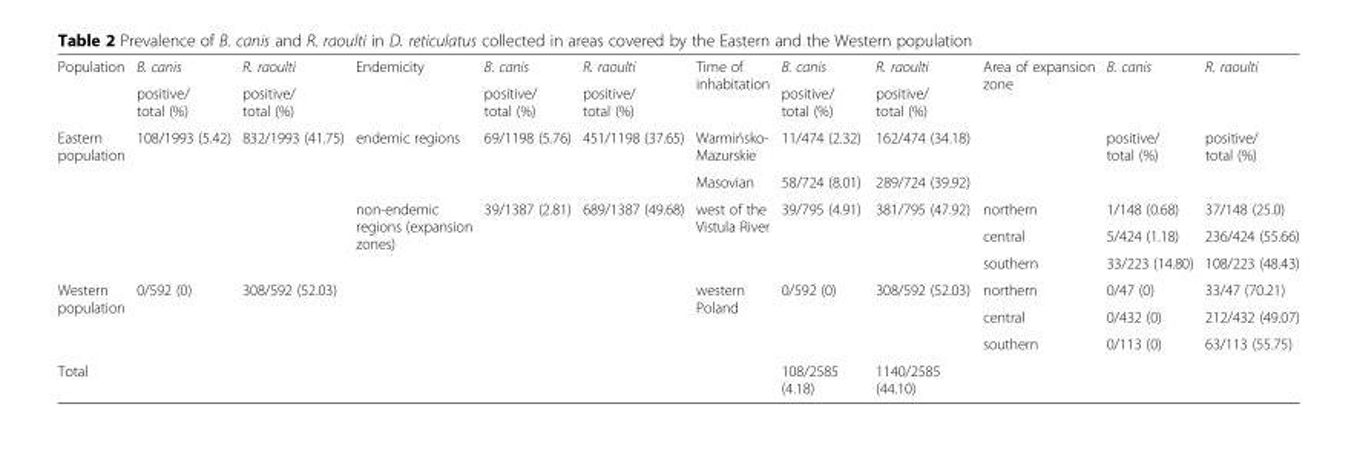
<table><tbody><tr><td rowspan="2">Population</td><td>B. canis</td><td>R. raoulti</td><td rowspan="2">Endemicity</td><td>B. canis</td><td>R. raoulti</td><td rowspan="2">Time of inhabitation</td><td>B. canis</td><td>R. raoulti</td><td rowspan="4">Area of expansion zone</td><td rowspan="2">B. canis</td><td rowspan="2">R. raoulti</td></tr><tr><td>positive/ total (%)</td><td>positive/ total (%)</td><td>positive/ total (%)</td><td>positive/ total (%)</td><td>positive/ total (%)</td><td>positive/ total (%)</td></tr><tr><td rowspan="5">Eastern population</td><td rowspan="5">108/1993 (5.42)</td><td rowspan="5">832/1993 (41.75)</td><td rowspan="2">endemic regions</td><td rowspan="2">69/1198 (5.76)</td><td rowspan="2">451/1198 (37.65)</td><td>Warmińsko- Mazurskie</td><td>11/474 (2.32)</td><td>162/474 (34.18)</td><td rowspan="2">positive/ total (%)</td><td rowspan="2">positive/ total (%)</td></tr><tr><td>Masovian</td><td>58/724 (8.01)</td><td>289/724 (39.92)</td></tr><tr><td rowspan="6">non-endemic regions (expansion zones)</td><td rowspan="6">39/1387 (2.81)</td><td rowspan="6">689/1387 (49.68)</td><td rowspan="3">west of the Vistula River</td><td rowspan="3">39/795 (4.91)</td><td rowspan="3">381/795 (47.92)</td><td>northern</td><td>1/148 (0.68)</td><td>37/148 (25.0)</td></tr><tr><td>central</td><td>5/424 (1.18)</td><td>236/424 (55.66)</td></tr><tr><td>southern</td><td>33/223 (14.80)</td><td>108/223 (48.43)</td></tr><tr><td rowspan="3">Western population</td><td rowspan="3">0/592 (0)</td><td rowspan="3">308/592 (52.03)</td><td rowspan="3">western Poland</td><td rowspan="3">0/592 (0)</td><td rowspan="3">308/592 (52.03)</td><td>northern</td><td>0/47 (0)</td><td>33/47 (70.21)</td></tr><tr><td>central</td><td>0/432 (0)</td><td>212/432 (49.07)</td></tr><tr><td>southern</td><td>0/113 (0)</td><td>63/113 (55.75)</td></tr><tr><td colspan="7">Total</td><td>108/2585 (4.18)</td><td>1140/2585 (44.10)</td><td colspan="3"></td></tr></tbody></table>